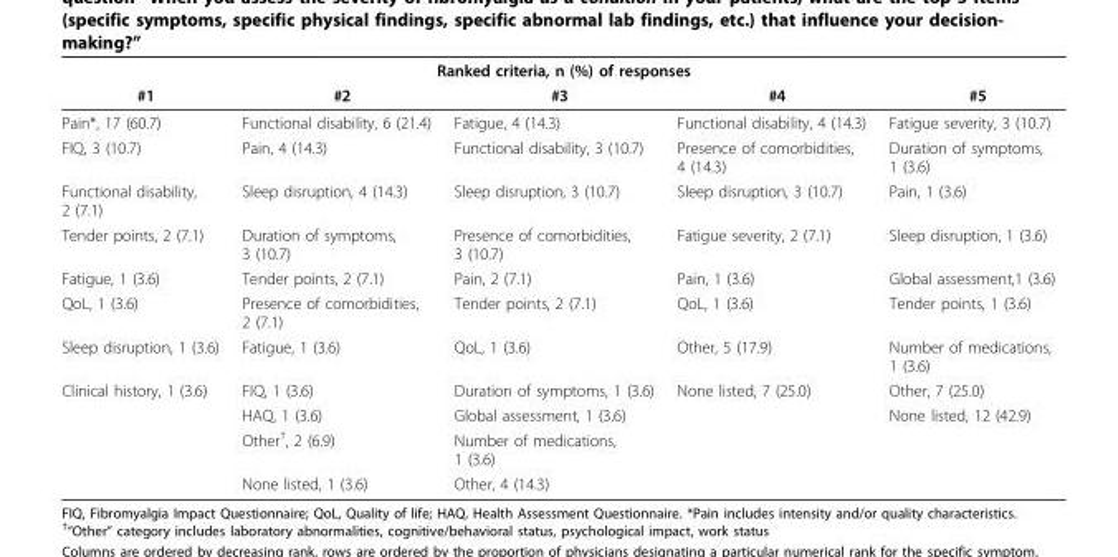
<table><thead><tr><td colspan="5">Ranked criteria, n (%) of responses</td></tr><tr><td>#1</td><td>#2</td><td>#3</td><td>#4</td><td>#5</td></tr></thead><tbody><tr><td>Pain*, 17 (60.7)</td><td>Functional disability, 6 (21.4)</td><td>Fatigue, 4 (14.3)</td><td>Functional disability, 4 (14.3)</td><td>Fatigue severity, 3 (10.7)</td></tr><tr><td>FIQ, 3 (10.7)</td><td>Pain, 4 (14.3)</td><td>Functional disability, 3 (10.7)</td><td>Presence of comorbidities, 4 (14.3)</td><td>Duration of symptoms, 1 (3.6)</td></tr><tr><td>Functional disability, 2 (7.1)</td><td>Sleep disruption, 4 (14.3)</td><td>Sleep disruption, 3 (10.7)</td><td>Sleep disruption, 3 (10.7)</td><td>Pain, 1 (3.6)</td></tr><tr><td>Tender points, 2 (7.1)</td><td>Duration of symptoms, 3 (10.7)</td><td>Presence of comorbidities, 3 (10.7)</td><td>Fatigue severity, 2 (7.1)</td><td>Sleep disruption, 1 (3.6)</td></tr><tr><td>Fatigue, 1 (3.6)</td><td>Tender points, 2 (7.1)</td><td>Pain, 2 (7.1)</td><td>Pain, 1 (3.6)</td><td>Global assessment,1 (3.6)</td></tr><tr><td>QoL, 1 (3.6)</td><td>Presence of comorbidities, 2 (7.1)</td><td>Tender points, 2 (7.1)</td><td>QoL, 1 (3.6)</td><td>Tender points, 1 (3.6)</td></tr><tr><td>Sleep disruption, 1 (3.6)</td><td>Fatigue, 1 (3.6)</td><td>QoL, 1 (3.6)</td><td>Other, 5 (17.9)</td><td>Number of medications, 1 (3.6)</td></tr><tr><td rowspan="4">Clinical history, 1 (3.6)</td><td>FIQ, 1 (3.6)</td><td>Duration of symptoms, 1 (3.6)</td><td>None listed, 7 (25.0)</td><td>Other, 7 (25.0)</td></tr><tr><td>HAQ, 1 (3.6)</td><td>Global assessment, 1 (3.6)</td><td></td><td>None listed, 12 (42.9)</td></tr><tr><td>Other<sup>†</sup>, 2 (6.9)</td><td>Number of medications, 1 (3.6)</td><td></td><td></td></tr><tr><td>None listed, 1 (3.6)</td><td>Other, 4 (14.3)</td><td></td><td></td></tr></tbody></table>